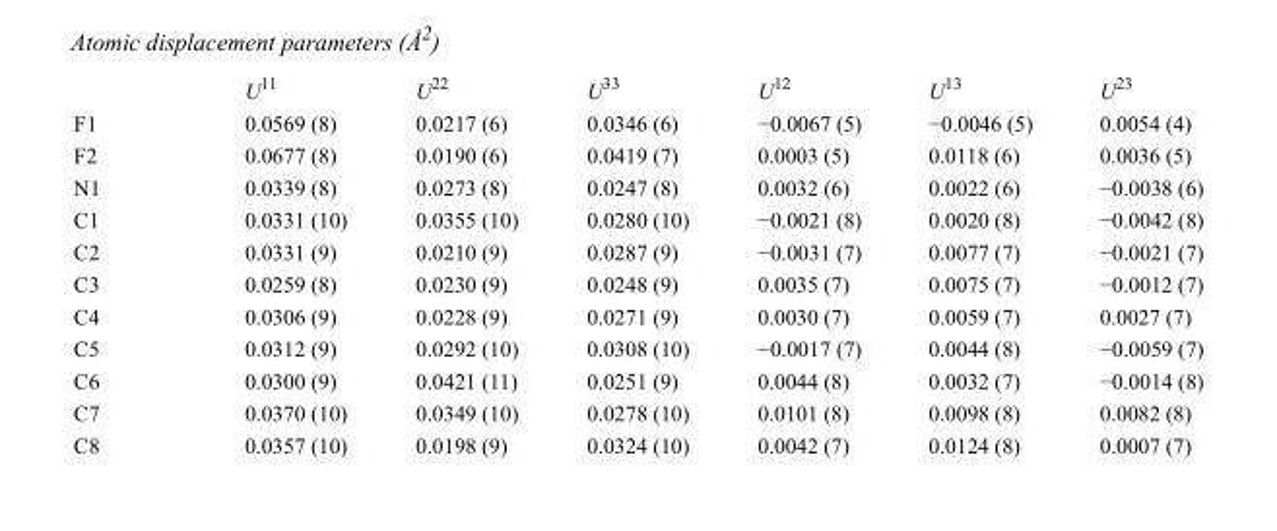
<table><thead><tr><td></td><td>U<sup>11</sup></td><td>U<sup>22</sup></td><td>U<sup>33</sup></td><td>U<sup>12</sup></td><td>U<sup>13</sup></td><td>U<sup>23</sup></td></tr></thead><tbody><tr><td>F1</td><td>0.0569 (8)</td><td>0.0217 (6)</td><td>0.0346 (6)</td><td>−0.0067 (5)</td><td>−0.0046 (5)</td><td>0.0054 (4)</td></tr><tr><td>F2</td><td>0.0677 (8)</td><td>0.0190 (6)</td><td>0.0419 (7)</td><td>0.0003 (5)</td><td>0.0118 (6)</td><td>0.0036 (5)</td></tr><tr><td>N1</td><td>0.0339 (8)</td><td>0.0273 (8)</td><td>0.0247 (8)</td><td>0.0032 (6)</td><td>0.0022 (6)</td><td>−0.0038 (6)</td></tr><tr><td>C1</td><td>0.0331 (10)</td><td>0.0355 (10)</td><td>0.0280 (10)</td><td>−0.0021 (8)</td><td>0.0020 (8)</td><td>−0.0042 (8)</td></tr><tr><td>C2</td><td>0.0331 (9)</td><td>0.0210 (9)</td><td>0.0287 (9)</td><td>−0.0031 (7)</td><td>0.0077 (7)</td><td>−0.0021 (7)</td></tr><tr><td>C3</td><td>0.0259 (8)</td><td>0.0230 (9)</td><td>0.0248 (9)</td><td>0.0035 (7)</td><td>0.0075 (7)</td><td>−0.0012 (7)</td></tr><tr><td>C4</td><td>0.0306 (9)</td><td>0.0228 (9)</td><td>0.0271 (9)</td><td>0.0030 (7)</td><td>0.0059 (7)</td><td>0.0027 (7)</td></tr><tr><td>C5</td><td>0.0312 (9)</td><td>0.0292 (10)</td><td>0.0308 (10)</td><td>−0.0017 (7)</td><td>0.0044 (8)</td><td>−0.0059 (7)</td></tr><tr><td>C6</td><td>0.0300 (9)</td><td>0.0421 (11)</td><td>0.0251 (9)</td><td>0.0044 (8)</td><td>0.0032 (7)</td><td>−0.0014 (8)</td></tr><tr><td>C7</td><td>0.0370 (10)</td><td>0.0349 (10)</td><td>0.0278 (10)</td><td>0.0101 (8)</td><td>0.0098 (8)</td><td>0.0082 (8)</td></tr><tr><td>C8</td><td>0.0357 (10)</td><td>0.0198 (9)</td><td>0.0324 (10)</td><td>0.0042 (7)</td><td>0.0124 (8)</td><td>0.0007 (7)</td></tr></tbody></table>